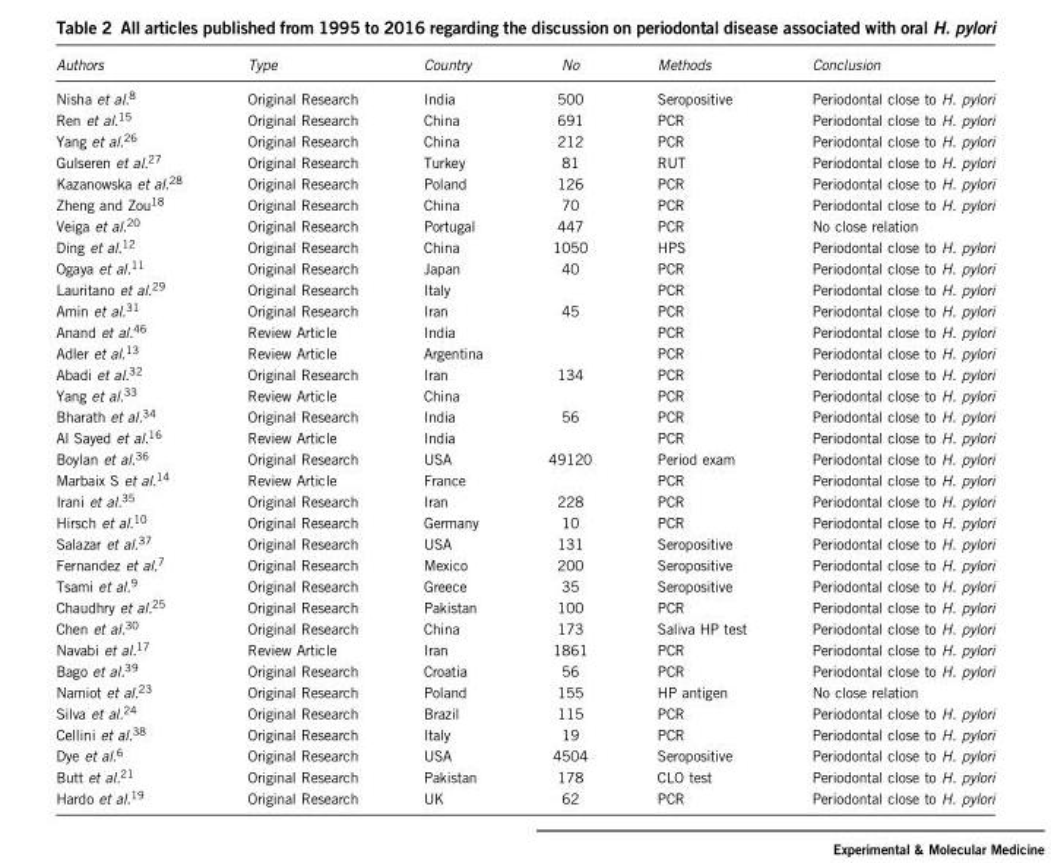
<table><thead><tr><td>Authors</td><td>Type</td><td>Country</td><td>No</td><td>Methods</td><td>Conclusion</td></tr></thead><tbody><tr><td>Nisha et al.<sup>8</sup></td><td>Original Research</td><td>India</td><td>500</td><td>Seropositive</td><td>Periodontal close to H. pylori</td></tr><tr><td>Ren et al.<sup>15</sup></td><td>Original Research</td><td>China</td><td>691</td><td>PCR</td><td>Periodontal close to H. pylori</td></tr><tr><td>Yang et al.<sup>26</sup></td><td>Original Research</td><td>China</td><td>212</td><td>PCR</td><td>Periodontal close to H. pylori</td></tr><tr><td>Gulseren et al.<sup>27</sup></td><td>Original Research</td><td>Turkey</td><td>81</td><td>RUT</td><td>Periodontal close to H. pylori</td></tr><tr><td>Kazanowska et al.<sup>28</sup></td><td>Original Research</td><td>Poland</td><td>126</td><td>PCR</td><td>Periodontal close to H. pylori</td></tr><tr><td>Zheng and Zou<sup>18</sup></td><td>Original Research</td><td>China</td><td>70</td><td>PCR</td><td>Periodontal close to H. pylori</td></tr><tr><td>Veiga et al.<sup>20</sup></td><td>Original Research</td><td>Portugal</td><td>447</td><td>PCR</td><td>No close relation</td></tr><tr><td>Ding et al.<sup>12</sup></td><td>Original Research</td><td>China</td><td>1050</td><td>HPS</td><td>Periodontal close to H. pylori</td></tr><tr><td>Ogaya et al.<sup>11</sup></td><td>Original Research</td><td>Japan</td><td>40</td><td>PCR</td><td>Periodontal close to H. pylori</td></tr><tr><td>Lauritano et al.<sup>29</sup></td><td>Original Research</td><td>Italy</td><td></td><td>PCR</td><td>Periodontal close to H. pylori</td></tr><tr><td>Amin et al.<sup>31</sup></td><td>Original Research</td><td>Iran</td><td>45</td><td>PCR</td><td>Periodontal close to H. pylori</td></tr><tr><td>Anand et al.<sup>46</sup></td><td>Review Article</td><td>India</td><td></td><td>PCR</td><td>Periodontal close to H. pylori</td></tr><tr><td>Adler et al.<sup>13</sup></td><td>Review Article</td><td>Argentina</td><td></td><td>PCR</td><td>Periodontal close to H. pylori</td></tr><tr><td>Abadi et al.<sup>32</sup></td><td>Original Research</td><td>Iran</td><td>134</td><td>PCR</td><td>Periodontal close to H. pylori</td></tr><tr><td>Yang et al.<sup>33</sup></td><td>Review Article</td><td>China</td><td></td><td>PCR</td><td>Periodontal close to H. pylori</td></tr><tr><td>Bharath et al.<sup>34</sup></td><td>Original Research</td><td>India</td><td>56</td><td>PCR</td><td>Periodontal close to H. pylori</td></tr><tr><td>Al Sayed et al.<sup>16</sup></td><td>Review Article</td><td>India</td><td></td><td>PCR</td><td>Periodontal close to H. pylori</td></tr><tr><td>Boylan et al.<sup>36</sup></td><td>Original Research</td><td>USA</td><td>49120</td><td>Period exam</td><td>Periodontal close to H. pylori</td></tr><tr><td>Marbaix S et al.<sup>14</sup></td><td>Review Article</td><td>France</td><td></td><td>PCR</td><td>Periodontal close to H. pylori</td></tr><tr><td>Irani et al.<sup>35</sup></td><td>Original Research</td><td>Iran</td><td>228</td><td>PCR</td><td>Periodontal close to H. pylori</td></tr><tr><td>Hirsch et al.<sup>10</sup></td><td>Original Research</td><td>Germany</td><td>10</td><td>PCR</td><td>Periodontal close to H. pylori</td></tr><tr><td>Salazar et al.<sup>37</sup></td><td>Original Research</td><td>USA</td><td>131</td><td>Seropositive</td><td>Periodontal close to H. pylori</td></tr><tr><td>Fernandez et al.<sup>7</sup></td><td>Original Research</td><td>Mexico</td><td>200</td><td>Seropositive</td><td>Periodontal close to H. pylori</td></tr><tr><td>Tsami et al.<sup>9</sup></td><td>Original Research</td><td>Greece</td><td>35</td><td>Seropositive</td><td>Periodontal close to H. pylori</td></tr><tr><td>Chaudhry et al.<sup>25</sup></td><td>Original Research</td><td>Pakistan</td><td>100</td><td>PCR</td><td>Periodontal close to H. pylori</td></tr><tr><td>Chen et al.<sup>30</sup></td><td>Original Research</td><td>China</td><td>173</td><td>Saliva HP test</td><td>Periodontal close to H. pylori</td></tr><tr><td>Navabi et al.<sup>17</sup></td><td>Review Article</td><td>Iran</td><td>1861</td><td>PCR</td><td>Periodontal close to H. pylori</td></tr><tr><td>Bago et al.<sup>39</sup></td><td>Original Research</td><td>Croatia</td><td>56</td><td>PCR</td><td>Periodontal close to H. pylori</td></tr><tr><td>Namiot et al.<sup>23</sup></td><td>Original Research</td><td>Poland</td><td>155</td><td>HP antigen</td><td>No close relation</td></tr><tr><td>Silva et al.<sup>24</sup></td><td>Original Research</td><td>Brazil</td><td>115</td><td>PCR</td><td>Periodontal close to H. pylori</td></tr><tr><td>Cellini et al.<sup>38</sup></td><td>Original Research</td><td>Italy</td><td>19</td><td>PCR</td><td>Periodontal close to H. pylori</td></tr><tr><td>Dye et al.<sup>6</sup></td><td>Original Research</td><td>USA</td><td>4504</td><td>Seropositive</td><td>Periodontal close to H. pylori</td></tr><tr><td>Butt et al.<sup>21</sup></td><td>Original Research</td><td>Pakistan</td><td>178</td><td>CLO test</td><td>Periodontal close to H. pylori</td></tr><tr><td>Hardo et al.<sup>19</sup></td><td>Original Research</td><td>UK</td><td>62</td><td>PCR</td><td>Periodontal close to H. pylori</td></tr></tbody></table>